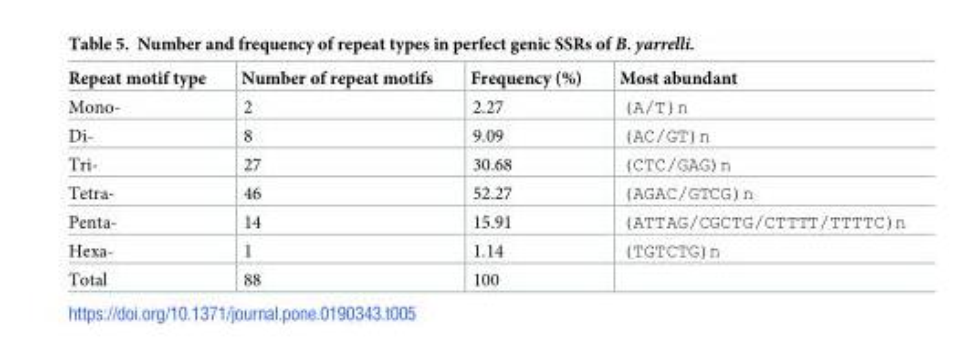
<table><thead><tr><td>Repeat motif type</td><td>Number of repeat motifs</td><td>Frequency (%)</td><td>Most abundant</td></tr></thead><tbody><tr><td>Mono-</td><td>2</td><td>2.27</td><td>(A/T)n</td></tr><tr><td>Di-</td><td>8</td><td>9.09</td><td>(AC/GT)n</td></tr><tr><td>Tri-</td><td>27</td><td>30.68</td><td>(CTC/GAG)n</td></tr><tr><td>Tetra-</td><td>46</td><td>52.27</td><td>(AGAC/GTCG)n</td></tr><tr><td>Penta-</td><td>14</td><td>15.91</td><td>(ATTAG/CGCTG/CTTTT/TTTTC)n</td></tr><tr><td>Hexa-</td><td>1</td><td>1.14</td><td>(TGTCTG)n</td></tr><tr><td>Total</td><td>88</td><td>100</td><td></td></tr></tbody></table>